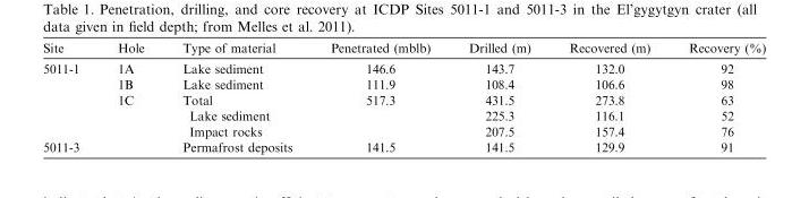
<table><thead><tr><td>Site</td><td>Hole</td><td>Type of material</td><td>Penetrated (mblb)</td><td>Drilled (m)</td><td>Recovered (m)</td><td>Recovery (%)</td></tr></thead><tbody><tr><td rowspan="5">5011-1</td><td>1A</td><td>Lake sediment</td><td>146.6</td><td>143.7</td><td>132.0</td><td>92</td></tr><tr><td>1B</td><td>Lake sediment</td><td>111.9</td><td>108.4</td><td>106.6</td><td>98</td></tr><tr><td>1C</td><td>Total</td><td>517.3</td><td>431.5</td><td>273.8</td><td>63</td></tr><tr><td></td><td>Lake sediment</td><td></td><td>225.3</td><td>116.1</td><td>52</td></tr><tr><td></td><td>Impact rocks</td><td></td><td>207.5</td><td>157.4</td><td>76</td></tr><tr><td>5011-3</td><td></td><td>Permafrost deposits</td><td>141.5</td><td>141.5</td><td>129.9</td><td>91</td></tr></tbody></table>